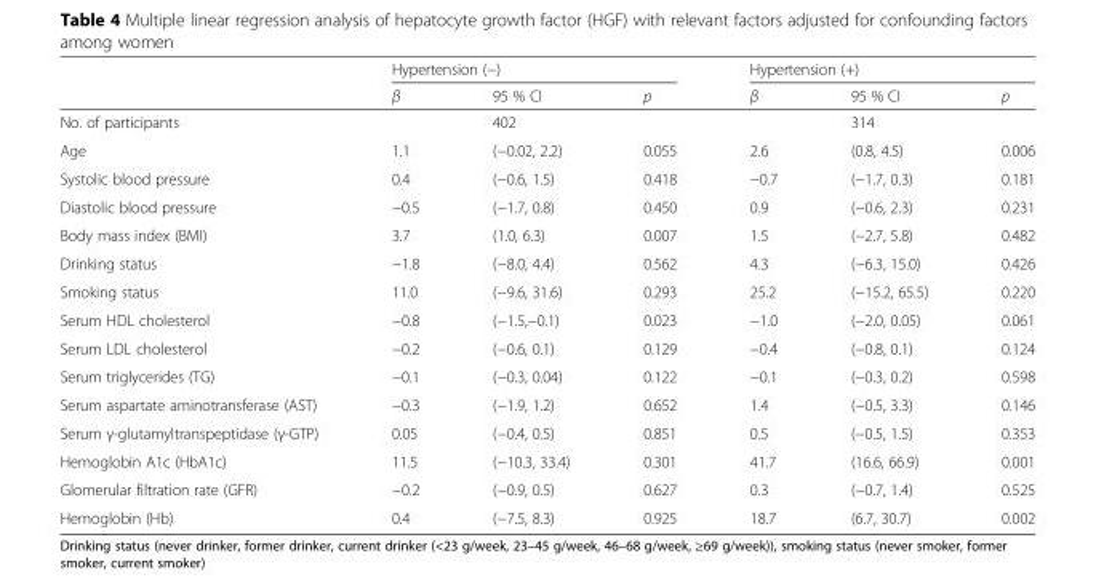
<table><thead><tr><td rowspan="2"></td><td colspan="3">Hypertension (−)</td><td colspan="3">Hypertension (+)</td></tr><tr><td>β</td><td>95 % CI</td><td>p</td><td>β</td><td>95 % CI</td><td>p</td></tr></thead><tbody><tr><td>No. of participants</td><td></td><td>402</td><td></td><td></td><td>314</td><td></td></tr><tr><td>Age</td><td>1.1</td><td>(−0.02, 2.2)</td><td>0.055</td><td>2.6</td><td>(0.8, 4.5)</td><td>0.006</td></tr><tr><td>Systolic blood pressure</td><td>0.4</td><td>(−0.6, 1.5)</td><td>0.418</td><td>−0.7</td><td>(−1.7, 0.3)</td><td>0.181</td></tr><tr><td>Diastolic blood pressure</td><td>−0.5</td><td>(−1.7, 0.8)</td><td>0.450</td><td>0.9</td><td>(−0.6, 2.3)</td><td>0.231</td></tr><tr><td>Body mass index (BMI)</td><td>3.7</td><td>(1.0, 6.3)</td><td>0.007</td><td>1.5</td><td>(−2.7, 5.8)</td><td>0.482</td></tr><tr><td>Drinking status</td><td>−1.8</td><td>(−8.0, 4.4)</td><td>0.562</td><td>4.3</td><td>(−6.3, 15.0)</td><td>0.426</td></tr><tr><td>Smoking status</td><td>11.0</td><td>(−9.6, 31.6)</td><td>0.293</td><td>25.2</td><td>(−15.2, 65.5)</td><td>0.220</td></tr><tr><td>Serum HDL cholesterol</td><td>−0.8</td><td>(−1.5,−0.1)</td><td>0.023</td><td>−1.0</td><td>(−2.0, 0.05)</td><td>0.061</td></tr><tr><td>Serum LDL cholesterol</td><td>−0.2</td><td>(−0.6, 0.1)</td><td>0.129</td><td>−0.4</td><td>(−0.8, 0.1)</td><td>0.124</td></tr><tr><td>Serum triglycerides (TG)</td><td>−0.1</td><td>(−0.3, 0.04)</td><td>0.122</td><td>−0.1</td><td>(−0.3, 0.2)</td><td>0.598</td></tr><tr><td>Serum aspartate aminotransferase (AST)</td><td>−0.3</td><td>(−1.9, 1.2)</td><td>0.652</td><td>1.4</td><td>(−0.5, 3.3)</td><td>0.146</td></tr><tr><td>Serum γ-glutamyltranspeptidase (γ-GTP)</td><td>0.05</td><td>(−0.4, 0.5)</td><td>0.851</td><td>0.5</td><td>(−0.5, 1.5)</td><td>0.353</td></tr><tr><td>Hemoglobin A1c (HbA1c)</td><td>11.5</td><td>(−10.3, 33.4)</td><td>0.301</td><td>41.7</td><td>(16.6, 66.9)</td><td>0.001</td></tr><tr><td>Glomerular filtration rate (GFR)</td><td>−0.2</td><td>(−0.9, 0.5)</td><td>0.627</td><td>0.3</td><td>(−0.7, 1.4)</td><td>0.525</td></tr><tr><td>Hemoglobin (Hb)</td><td>0.4</td><td>(−7.5, 8.3)</td><td>0.925</td><td>18.7</td><td>(6.7, 30.7)</td><td>0.002</td></tr></tbody></table>